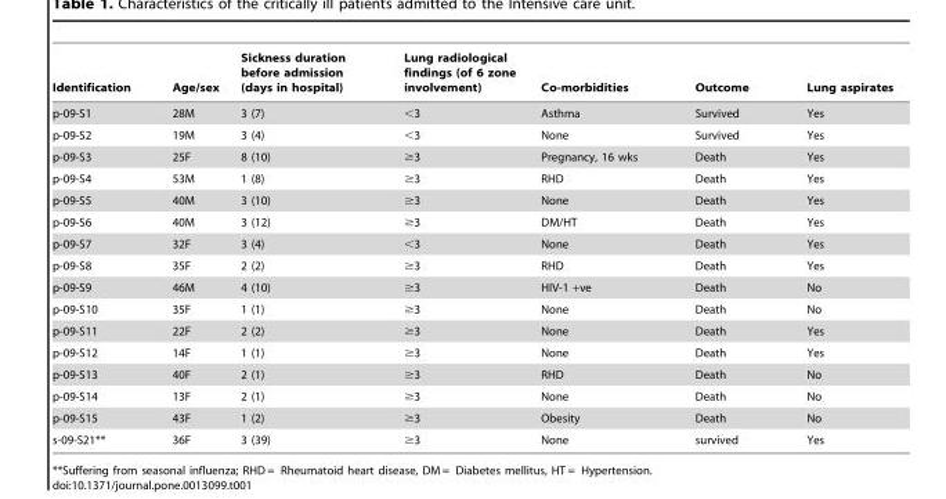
<table><thead><tr><td>Identification</td><td>Age/sex</td><td>Sickness duration before admission (days in hospital)</td><td>Lung radiological findings (of 6 zone involvement)</td><td>Co-morbidities</td><td>Outcome</td><td>Lung aspirates</td></tr></thead><tbody><tr><td>p-09-S1</td><td>28M</td><td>3 (7)</td><td>&lt;3</td><td>Asthma</td><td>Survived</td><td>Yes</td></tr><tr><td>p-09-S2</td><td>19M</td><td>3 (4)</td><td>&lt;3</td><td>None</td><td>Survived</td><td>Yes</td></tr><tr><td>p-09-S3</td><td>25F</td><td>8 (10)</td><td>≥3</td><td>Pregnancy, 16 wks</td><td>Death</td><td>Yes</td></tr><tr><td>p-09-S4</td><td>53M</td><td>1 (8)</td><td>≥3</td><td>RHD</td><td>Death</td><td>Yes</td></tr><tr><td>p-09-S5</td><td>40M</td><td>3 (10)</td><td>≥3</td><td>None</td><td>Death</td><td>Yes</td></tr><tr><td>p-09-S6</td><td>40M</td><td>3 (12)</td><td>≥3</td><td>DM/HT</td><td>Death</td><td>Yes</td></tr><tr><td>p-09-S7</td><td>32F</td><td>3 (4)</td><td>&lt;3</td><td>None</td><td>Death</td><td>Yes</td></tr><tr><td>p-09-S8</td><td>35F</td><td>2 (2)</td><td>≥3</td><td>RHD</td><td>Death</td><td>Yes</td></tr><tr><td>p-09-S9</td><td>46M</td><td>4 (10)</td><td>≥3</td><td>HIV-1 +ve</td><td>Death</td><td>No</td></tr><tr><td>p-09-S10</td><td>35F</td><td>1 (1)</td><td>≥3</td><td>None</td><td>Death</td><td>No</td></tr><tr><td>p-09-S11</td><td>22F</td><td>2 (2)</td><td>≥3</td><td>None</td><td>Death</td><td>Yes</td></tr><tr><td>p-09-S12</td><td>14F</td><td>1 (1)</td><td>≥3</td><td>None</td><td>Death</td><td>Yes</td></tr><tr><td>p-09-S13</td><td>40F</td><td>2 (1)</td><td>≥3</td><td>RHD</td><td>Death</td><td>No</td></tr><tr><td>p-09-S14</td><td>13F</td><td>2 (1)</td><td>≥3</td><td>None</td><td>Death</td><td>No</td></tr><tr><td>p-09-S15</td><td>43F</td><td>1 (2)</td><td>≥3</td><td>Obesity</td><td>Death</td><td>No</td></tr><tr><td>s-09-S21**</td><td>36F</td><td>3 (39)</td><td>≥3</td><td>None</td><td>survived</td><td>Yes</td></tr></tbody></table>